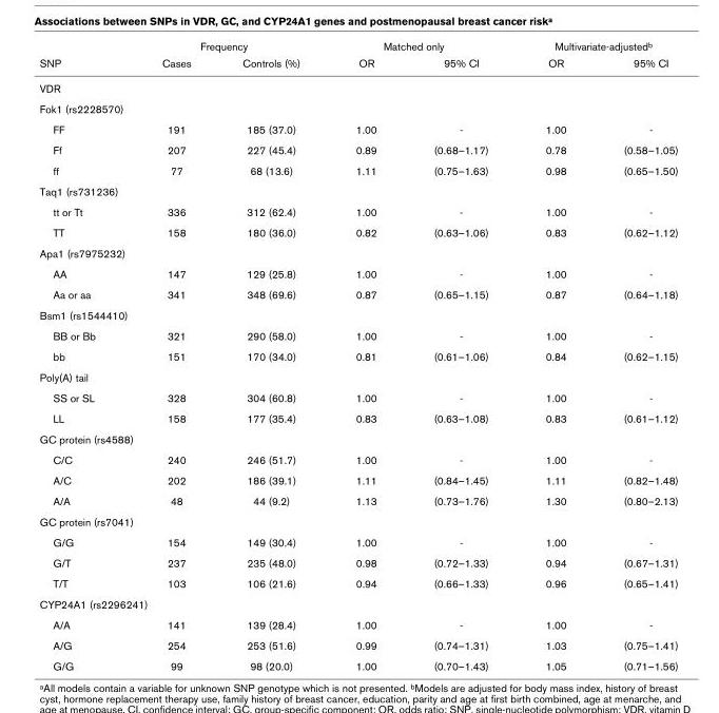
<table><thead><tr><td rowspan="2">SNP</td><td colspan="2">Frequency</td><td colspan="2">Matched only</td><td colspan="2">Multivariate-adjustedb</td></tr><tr><td>Cases</td><td>Controls (%)</td><td>OR</td><td>95% CI</td><td>OR</td><td>95% CI</td></tr></thead><tbody><tr><td colspan="7">VDR</td></tr><tr><td colspan="7">Fok1 (rs2228570)</td></tr><tr><td>FF</td><td>191</td><td>185 (37.0)</td><td>1.00</td><td>-</td><td>1.00</td><td>-</td></tr><tr><td>Ff</td><td>207</td><td>227 (45.4)</td><td>0.89</td><td>(0.68–1.17)</td><td>0.78</td><td>(0.58–1.05)</td></tr><tr><td>ff</td><td>77</td><td>68 (13.6)</td><td>1.11</td><td>(0.75–1.63)</td><td>0.98</td><td>(0.65–1.50)</td></tr><tr><td colspan="7">Taq1 (rs731236)</td></tr><tr><td>tt or Tt</td><td>336</td><td>312 (62.4)</td><td>1.00</td><td>-</td><td>1.00</td><td>-</td></tr><tr><td>TT</td><td>158</td><td>180 (36.0)</td><td>0.82</td><td>(0.63–1.06)</td><td>0.83</td><td>(0.62–1.12)</td></tr><tr><td colspan="7">Apa1 (rs7975232)</td></tr><tr><td>AA</td><td>147</td><td>129 (25.8)</td><td>1.00</td><td>-</td><td>1.00</td><td>-</td></tr><tr><td>Aa or aa</td><td>341</td><td>348 (69.6)</td><td>0.87</td><td>(0.65–1.15)</td><td>0.87</td><td>(0.64–1.18)</td></tr><tr><td colspan="7">Bsm1 (rs1544410)</td></tr><tr><td>BB or Bb</td><td>321</td><td>290 (58.0)</td><td>1.00</td><td>-</td><td>1.00</td><td>-</td></tr><tr><td>bb</td><td>151</td><td>170 (34.0)</td><td>0.81</td><td>(0.61–1.06)</td><td>0.84</td><td>(0.62–1.15)</td></tr><tr><td colspan="7">Poly(A) tail</td></tr><tr><td>SS or SL</td><td>328</td><td>304 (60.8)</td><td>1.00</td><td>-</td><td>1.00</td><td>-</td></tr><tr><td>LL</td><td>158</td><td>177 (35.4)</td><td>0.83</td><td>(0.63–1.08)</td><td>0.83</td><td>(0.61–1.12)</td></tr><tr><td colspan="7">GC protein (rs4588)</td></tr><tr><td>C/C</td><td>240</td><td>246 (51.7)</td><td>1.00</td><td>-</td><td>1.00</td><td>-</td></tr><tr><td>A/C</td><td>202</td><td>186 (39.1)</td><td>1.11</td><td>(0.84–1.45)</td><td>1.11</td><td>(0.82–1.48)</td></tr><tr><td>A/A</td><td>48</td><td>44 (9.2)</td><td>1.13</td><td>(0.73–1.76)</td><td>1.30</td><td>(0.80–2.13)</td></tr><tr><td colspan="7">GC protein (rs7041)</td></tr><tr><td>G/G</td><td>154</td><td>149 (30.4)</td><td>1.00</td><td>-</td><td>1.00</td><td>-</td></tr><tr><td>G/T</td><td>237</td><td>235 (48.0)</td><td>0.98</td><td>(0.72–1.33)</td><td>0.94</td><td>(0.67–1.31)</td></tr><tr><td>T/T</td><td>103</td><td>106 (21.6)</td><td>0.94</td><td>(0.66–1.33)</td><td>0.96</td><td>(0.65–1.41)</td></tr><tr><td colspan="7">CYP24A1 (rs2296241)</td></tr><tr><td>A/A</td><td>141</td><td>139 (28.4)</td><td>1.00</td><td>-</td><td>1.00</td><td>-</td></tr><tr><td>A/G</td><td>254</td><td>253 (51.6)</td><td>0.99</td><td>(0.74–1.31)</td><td>1.03</td><td>(0.75–1.41)</td></tr><tr><td>G/G</td><td>99</td><td>98 (20.0)</td><td>1.00</td><td>(0.70–1.43)</td><td>1.05</td><td>(0.71–1.56)</td></tr></tbody></table>